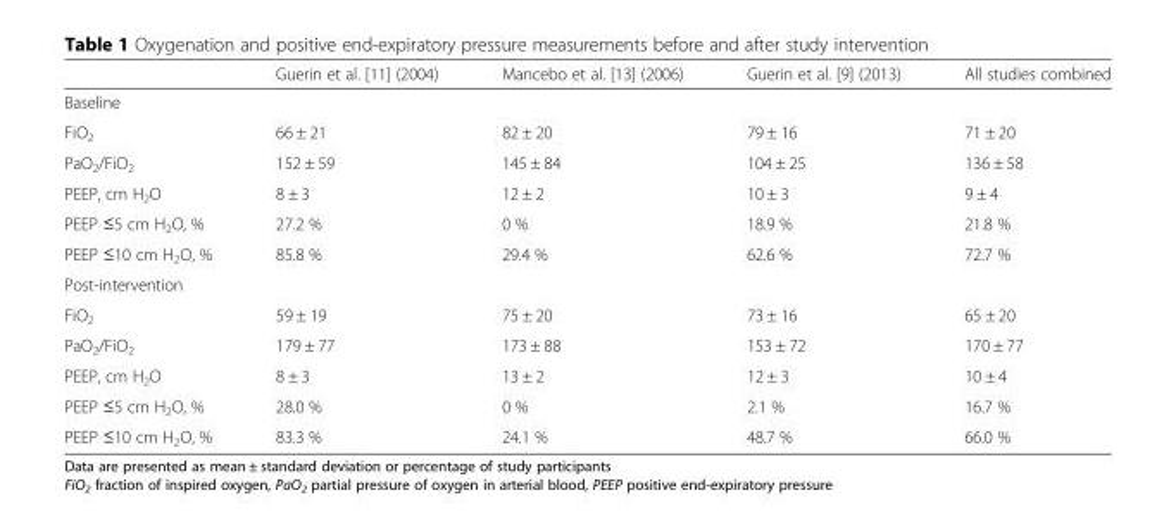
<table><thead><tr><td></td><td>Guerin et al. [11] (2004)</td><td>Mancebo et al. [13] (2006)</td><td>Guerin et al. [9] (2013)</td><td>All studies combined</td></tr></thead><tbody><tr><td colspan="5">Baseline</td></tr><tr><td>FiO<sub>2</sub></td><td>66 ± 21</td><td>82 ± 20</td><td>79 ± 16</td><td>71 ± 20</td></tr><tr><td>PaO<sub>2</sub>/FiO<sub>2</sub></td><td>152 ± 59</td><td>145 ± 84</td><td>104 ± 25</td><td>136 ± 58</td></tr><tr><td>PEEP, cm H<sub>2</sub>O</td><td>8 ± 3</td><td>12 ± 2</td><td>10 ± 3</td><td>9 ± 4</td></tr><tr><td>PEEP ≤5 cm H<sub>2</sub>O, %</td><td>27.2 %</td><td>0 %</td><td>18.9 %</td><td>21.8 %</td></tr><tr><td>PEEP ≤10 cm H<sub>2</sub>O, %</td><td>85.8 %</td><td>29.4 %</td><td>62.6 %</td><td>72.7 %</td></tr><tr><td colspan="5">Post-intervention</td></tr><tr><td>FiO<sub>2</sub></td><td>59 ± 19</td><td>75 ± 20</td><td>73 ± 16</td><td>65 ± 20</td></tr><tr><td>PaO<sub>2</sub>/FiO<sub>2</sub></td><td>179 ± 77</td><td>173 ± 88</td><td>153 ± 72</td><td>170 ± 77</td></tr><tr><td>PEEP, cm H<sub>2</sub>O</td><td>8 ± 3</td><td>13 ± 2</td><td>12 ± 3</td><td>10 ± 4</td></tr><tr><td>PEEP ≤5 cm H<sub>2</sub>O, %</td><td>28.0 %</td><td>0 %</td><td>2.1 %</td><td>16.7 %</td></tr><tr><td>PEEP ≤10 cm H<sub>2</sub>O, %</td><td>83.3 %</td><td>24.1 %</td><td>48.7 %</td><td>66.0 %</td></tr></tbody></table>